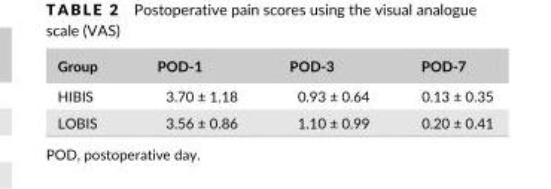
<table><thead><tr><td>Group</td><td>POD- 1</td><td>POD- 3</td><td>POD- 7</td></tr></thead><tbody><tr><td>HIBIS</td><td>3.70 ± 1.18</td><td>0.93 ± 0.64</td><td>0.13 ± 0.35</td></tr><tr><td>LOBIS</td><td>3.56 ± 0.86</td><td>1.10 ± 0.99</td><td>0.20 ± 0.41</td></tr></tbody></table>